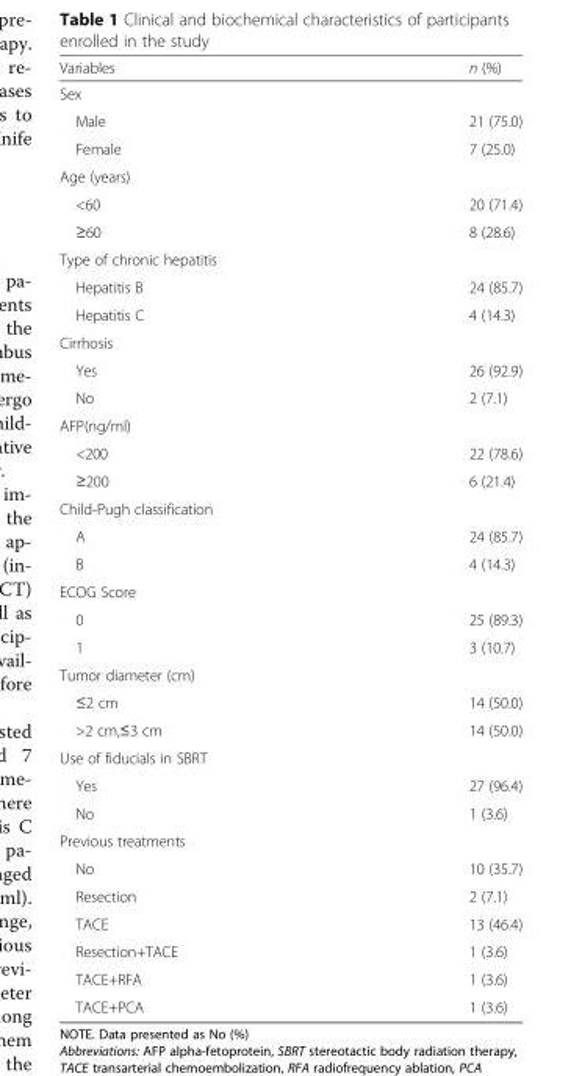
<table><thead><tr><td>Variables</td><td>n (%)</td></tr></thead><tbody><tr><td colspan="2">Sex</td></tr><tr><td>Male</td><td>21 (75.0)</td></tr><tr><td>Female</td><td>7 (25.0)</td></tr><tr><td colspan="2">Age (years)</td></tr><tr><td>&lt;60</td><td>20 (71.4)</td></tr><tr><td>≥60</td><td>8 (28.6)</td></tr><tr><td colspan="2">Type of chronic hepatitis</td></tr><tr><td>Hepatitis B</td><td>24 (85.7)</td></tr><tr><td>Hepatitis C</td><td>4 (14.3)</td></tr><tr><td colspan="2">Cirrhosis</td></tr><tr><td>Yes</td><td>26 (92.9)</td></tr><tr><td>No</td><td>2 (7.1)</td></tr><tr><td colspan="2">AFP(ng/ml)</td></tr><tr><td>&lt;200</td><td>22 (78.6)</td></tr><tr><td>≥200</td><td>6 (21.4)</td></tr><tr><td colspan="2">Child-Pugh classification</td></tr><tr><td>A</td><td>24 (85.7)</td></tr><tr><td>B</td><td>4 (14.3)</td></tr><tr><td colspan="2">ECOG Score</td></tr><tr><td>0</td><td>25 (89.3)</td></tr><tr><td>1</td><td>3 (10.7)</td></tr><tr><td colspan="2">Tumor diameter (cm)</td></tr><tr><td>≤2 cm</td><td>14 (50.0)</td></tr><tr><td>&gt;2 cm,≤3 cm</td><td>14 (50.0)</td></tr><tr><td colspan="2">Use of fiducials in SBRT</td></tr><tr><td>Yes</td><td>27 (96.4)</td></tr><tr><td>No</td><td>1 (3.6)</td></tr><tr><td colspan="2">Previous treatments</td></tr><tr><td>No</td><td>10 (35.7)</td></tr><tr><td>Resection</td><td>2 (7.1)</td></tr><tr><td>TACE</td><td>13 (46.4)</td></tr><tr><td>Resection+TACE</td><td>1 (3.6)</td></tr><tr><td>TACE+RFA</td><td>1 (3.6)</td></tr><tr><td>TACE+PCA</td><td>1 (3.6)</td></tr></tbody></table>